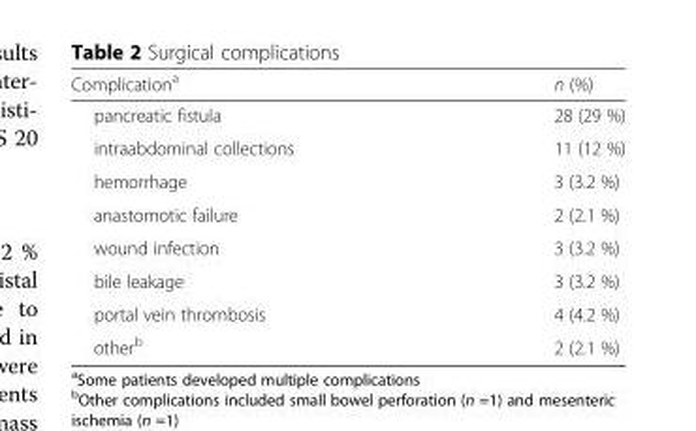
<table><thead><tr><td>Complication<sup>a</sup></td><td>n (%)</td></tr></thead><tbody><tr><td>pancreatic fistula</td><td>28 (29 %)</td></tr><tr><td>intraabdominal collections</td><td>11 (12 %)</td></tr><tr><td>hemorrhage</td><td>3 (3.2 %)</td></tr><tr><td>anastomotic failure</td><td>2 (2.1 %)</td></tr><tr><td>wound infection</td><td>3 (3.2 %)</td></tr><tr><td>bile leakage</td><td>3 (3.2 %)</td></tr><tr><td>portal vein thrombosis</td><td>4 (4.2 %)</td></tr><tr><td>other<sup>b</sup></td><td>2 (2.1 %)</td></tr></tbody></table>